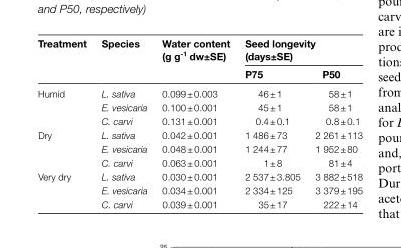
<table><thead><tr><td rowspan="2">Treatment</td><td rowspan="2">Species</td><td rowspan="2">Water content (g g<sup>-1</sup> dw±SE)</td><td colspan="2">Seed longevity (days±SE)</td></tr><tr><td>P75</td><td>P50</td></tr></thead><tbody><tr><td rowspan="3">Humid</td><td>L. sativa</td><td>0.099 ± 0.003</td><td>46 ± 1</td><td>58 ± 1</td></tr><tr><td>E. vesicaria</td><td>0.100 ± 0.001</td><td>45 ± 1</td><td>58 ± 1</td></tr><tr><td>C. carvi</td><td>0.131 ± 0.001</td><td>0.4 ± 0.1</td><td>0.8 ± 0.1</td></tr><tr><td rowspan="3">Dry</td><td>L. sativa</td><td>0.042 ± 0.001</td><td>1 486 ± 73</td><td>2 261 ± 113</td></tr><tr><td>E. vesicaria</td><td>0.048 ± 0.001</td><td>1 244 ± 77</td><td>1 952 ± 80</td></tr><tr><td>C. carvi</td><td>0.063 ± 0.001</td><td>1 ± 8</td><td>81 ± 4</td></tr><tr><td rowspan="3">Very dry</td><td>L. sativa</td><td>0.030 ± 0.001</td><td>2 537 ± 3.805</td><td>3 882 ± 518</td></tr><tr><td>E. vesicaria</td><td>0.034 ± 0.001</td><td>2 334 ± 125</td><td>3 379 ± 195</td></tr><tr><td>C. carvi</td><td>0.039 ± 0.001</td><td>35 ± 17</td><td>222 ± 14</td></tr></tbody></table>